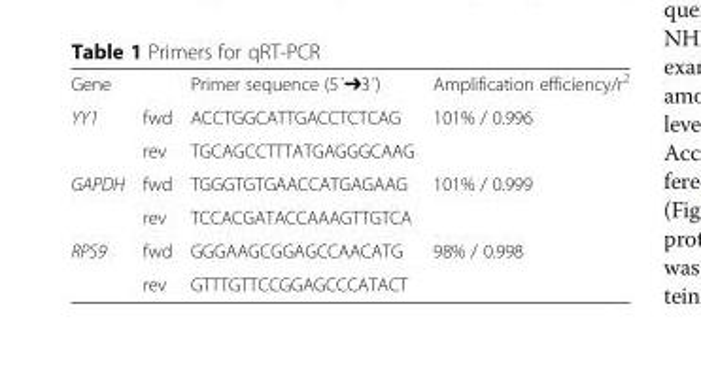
<table><tbody><tr><td colspan="2">Gene</td><td>Primer sequence (5´➔3´)</td><td>Amplification efficiency/r<sup>2</sup></td></tr><tr><td rowspan="2">YY1</td><td>fwd</td><td>ACCTGGCATTGACCTCTCAG</td><td rowspan="2">101% / 0.996</td></tr><tr><td>rev</td><td>TGCAGCCTTTATGAGGGCAAG</td></tr><tr><td rowspan="2">GAPDH</td><td>fwd</td><td>TGGGTGTGAACCATGAGAAG</td><td rowspan="2">101% / 0.999</td></tr><tr><td>rev</td><td>TCCACGATACCAAAGTTGTCA</td></tr><tr><td rowspan="2">RPS9</td><td>fwd</td><td>GGGAAGCGGAGCCAACATG</td><td rowspan="2">98% / 0.998</td></tr><tr><td>rev</td><td>GTTTGTTCCGGAGCCCATACT</td></tr></tbody></table>